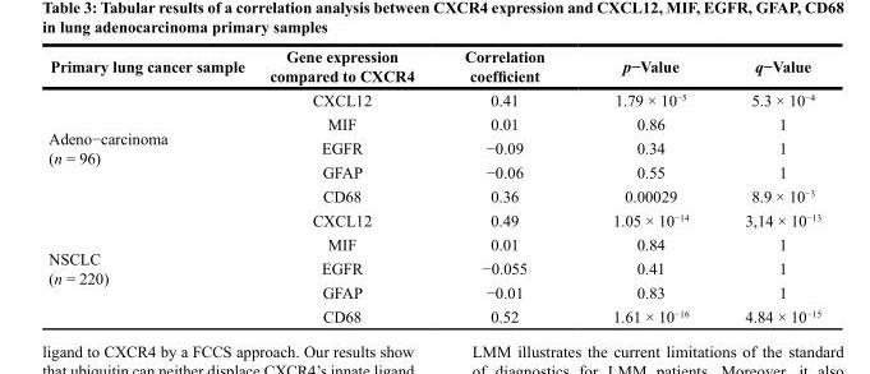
<table><thead><tr><td>Primary lung cancer sample</td><td>Gene expression compared to CXCR4</td><td>Correlation coefficient</td><td>p−Value</td><td>q−Value</td></tr></thead><tbody><tr><td rowspan="5">Adeno−carcinoma (n = 96)</td><td>CXCL12</td><td>0.41</td><td>1.79 × 10<sup>−5</sup></td><td>5.3 × 10<sup>−4</sup></td></tr><tr><td>MIF</td><td>0.01</td><td>0.86</td><td>1</td></tr><tr><td>EGFR</td><td>−0.09</td><td>0.34</td><td>1</td></tr><tr><td>GFAP</td><td>−0.06</td><td>0.55</td><td>1</td></tr><tr><td>CD68</td><td>0.36</td><td>0.00029</td><td>8.9 × 10<sup>−3</sup></td></tr><tr><td rowspan="5">NSCLC (n = 220)</td><td>CXCL12</td><td>0.49</td><td>1.05 × 10<sup>−14</sup></td><td>3,14 × 10<sup>−13</sup></td></tr><tr><td>MIF</td><td>0.01</td><td>0.84</td><td>1</td></tr><tr><td>EGFR</td><td>−0.055</td><td>0.41</td><td>1</td></tr><tr><td>GFAP</td><td>−0.01</td><td>0.83</td><td>1</td></tr><tr><td>CD68</td><td>0.52</td><td>1.61 × 10<sup>−16</sup></td><td>4.84 × 10<sup>−15</sup></td></tr></tbody></table>